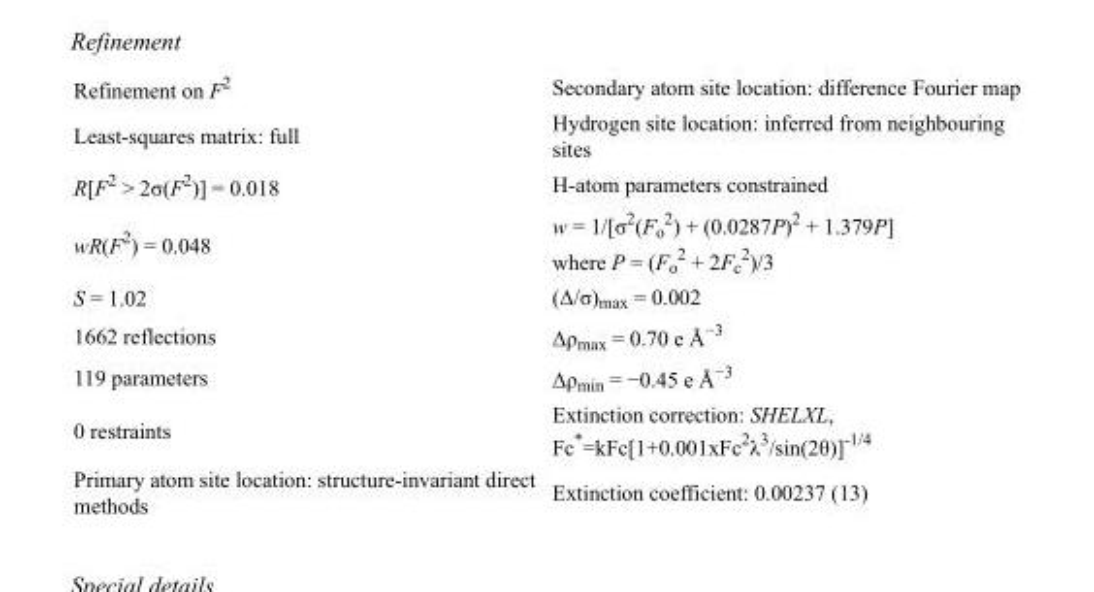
<table><tbody><tr><td>Refinement on F<sup>2</sup></td><td>Secondary atom site location: difference Fourier map</td></tr><tr><td>Least-squares matrix: full</td><td>Hydrogen site location: inferred from neighbouring sites</td></tr><tr><td>R[F<sup>2</sup> &gt; 2σ(F<sup>2</sup>)] = 0.018</td><td>H-atom parameters constrained</td></tr><tr><td>wR(F<sup>2</sup>) = 0.048</td><td>w = 1/[σ<sup>2</sup>(F<sub>o</sub> <sup>2</sup>) + (0.0287P)<sup>2</sup> + 1.379P] where P = (F<sub>o</sub> <sup>2</sup> + 2F<sub>c</sub> <sup>2</sup>)/3</td></tr><tr><td>S = 1.02</td><td>(Δ/σ)<sub>max</sub> = 0.002</td></tr><tr><td>1662 reflections</td><td>Δρ<sub>max</sub> = 0.70 e Å<sup>−3</sup></td></tr><tr><td>119 parameters</td><td>Δρ<sub>min</sub> = −0.45 e Å<sup>−3</sup></td></tr><tr><td>0 restraints</td><td>Extinction correction: SHELXL, Fc*=kFc[1+0.001xFc<sup>2</sup>λ<sup>3</sup>/sin(2θ)]<sup>-1/4</sup></td></tr><tr><td>Primary atom site location: structure-invariant direct methods</td><td>Extinction coefficient: 0.00237 (13)</td></tr></tbody></table>